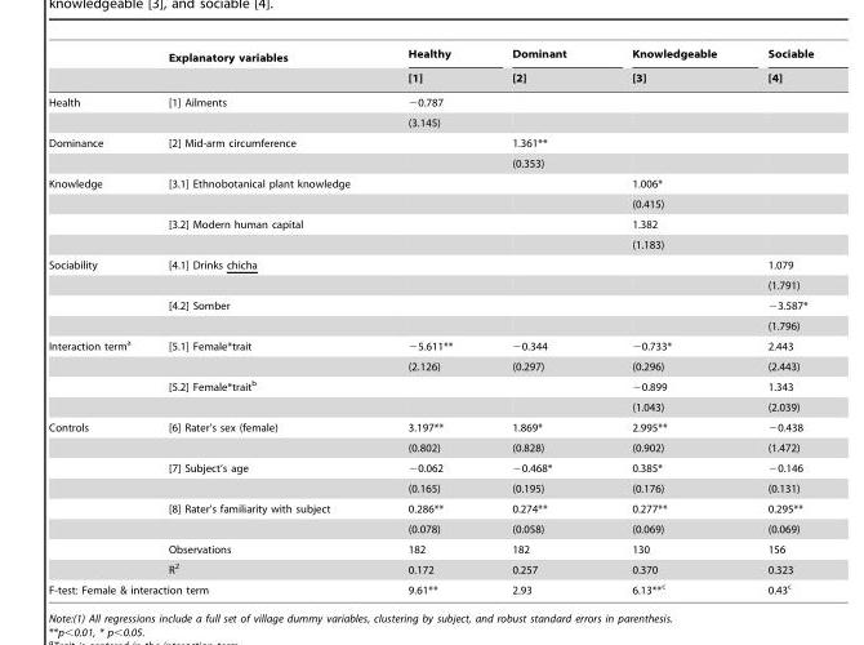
<table><thead><tr><td rowspan="2"></td><td rowspan="2">Explanatory variables</td><td rowspan="2">Healthy [1]</td><td rowspan="2">Dominant [2]</td><td rowspan="2">Knowledgeable [3]</td><td rowspan="2">Sociable [4]</td></tr><tr></tr></thead><tbody><tr><td rowspan="2">Health</td><td>[1] Ailments</td><td>−0.787</td><td></td><td></td><td></td></tr><tr><td></td><td>(3.145)</td><td></td><td></td><td></td></tr><tr><td rowspan="2">Dominance</td><td>[2] Mid-arm circumference</td><td></td><td>1.361**</td><td></td><td></td></tr><tr><td></td><td></td><td>(0.353)</td><td></td><td></td></tr><tr><td rowspan="4">Knowledge</td><td>[3.1] Ethnobotanical plant knowledge</td><td></td><td></td><td>1.006*</td><td></td></tr><tr><td></td><td></td><td></td><td>(0.415)</td><td></td></tr><tr><td>[3.2] Modern human capital</td><td></td><td></td><td>1.382</td><td></td></tr><tr><td></td><td></td><td></td><td>(1.183)</td><td></td></tr><tr><td rowspan="4">Sociability</td><td>[4.1] Drinks chicha</td><td></td><td></td><td></td><td>1.079</td></tr><tr><td></td><td></td><td></td><td></td><td>(1.791)</td></tr><tr><td>[4.2] Somber</td><td></td><td></td><td></td><td>−3.587*</td></tr><tr><td></td><td></td><td></td><td></td><td>(1.796)</td></tr><tr><td rowspan="4">Interaction term<sup>a</sup></td><td>[5.1] Female*trait</td><td>−5.611**</td><td>−0.344</td><td>−0.733*</td><td>2.443</td></tr><tr><td></td><td>(2.126)</td><td>(0.297)</td><td>(0.296)</td><td>(2.443)</td></tr><tr><td>[5.2] Female*trait<sup>b</sup></td><td></td><td></td><td>−0.899</td><td>1.343</td></tr><tr><td></td><td></td><td></td><td>(1.043)</td><td>(2.039)</td></tr><tr><td rowspan="8">Controls</td><td>[6] Rater’s sex (female)</td><td>3.197**</td><td>1.869*</td><td>2.995**</td><td>−0.438</td></tr><tr><td></td><td>(0.802)</td><td>(0.828)</td><td>(0.902)</td><td>(1.472)</td></tr><tr><td>[7] Subject’s age</td><td>−0.062</td><td>−0.468*</td><td>0.385*</td><td>−0.146</td></tr><tr><td></td><td>(0.165)</td><td>(0.195)</td><td>(0.176)</td><td>(0.131)</td></tr><tr><td>[8] Rater’s familiarity with subject</td><td>0.286**</td><td>0.274**</td><td>0.277**</td><td>0.295**</td></tr><tr><td></td><td>(0.078)</td><td>(0.058)</td><td>(0.069)</td><td>(0.069)</td></tr><tr><td>Observations</td><td>182</td><td>182</td><td>130</td><td>156</td></tr><tr><td>R<sup>2</sup></td><td>0.172</td><td>0.257</td><td>0.370</td><td>0.323</td></tr><tr><td colspan="2">F-test: Female &amp; interaction term</td><td>9.61**</td><td>2.93</td><td>6.13**c</td><td>0.43<sup>c</sup></td></tr></tbody></table>